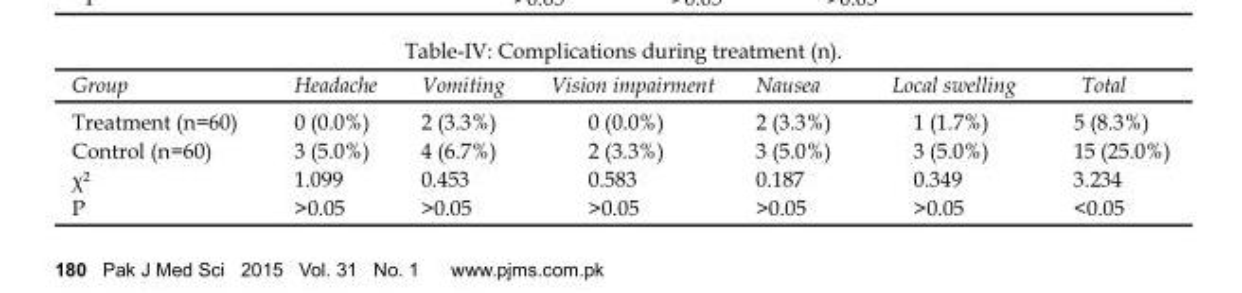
<table><thead><tr><td>Group</td><td>Headache</td><td>Vomiting</td><td>Vision impairment</td><td>Nausea</td><td>Local swelling</td><td>Total</td></tr></thead><tbody><tr><td>Treatment (n=60)</td><td>0 (0.0%)</td><td>2 (3.3%)</td><td>0 (0.0%)</td><td>2 (3.3%)</td><td>1 (1.7%)</td><td>5 (8.3%)</td></tr><tr><td>Control (n=60)</td><td>3 (5.0%)</td><td>4 (6.7%)</td><td>2 (3.3%)</td><td>3 (5.0%)</td><td>3 (5.0%)</td><td>15 (25.0%)</td></tr><tr><td>χ²</td><td>1.099</td><td>0.453</td><td>0.583</td><td>0.187</td><td>0.349</td><td>3.234</td></tr><tr><td>P</td><td>&gt;0.05</td><td>&gt;0.05</td><td>&gt;0.05</td><td>&gt;0.05</td><td>&gt;0.05</td><td>&lt;0.05</td></tr></tbody></table>